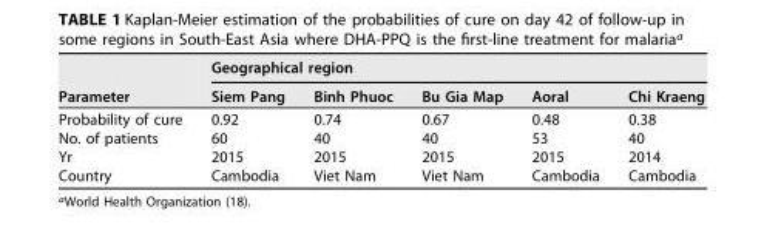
<table><thead><tr><td rowspan="2">Parameter</td><td colspan="5">Geographical region</td></tr><tr><td>Siem Pang</td><td>Binh Phuoc</td><td>Bu Gia Map</td><td>Aoral</td><td>Chi Kraeng</td></tr></thead><tbody><tr><td>Probability of cure</td><td>0.92</td><td>0.74</td><td>0.67</td><td>0.48</td><td>0.38</td></tr><tr><td>No. of patients</td><td>60</td><td>40</td><td>40</td><td>53</td><td>40</td></tr><tr><td>Yr</td><td>2015</td><td>2015</td><td>2015</td><td>2015</td><td>2014</td></tr><tr><td>Country</td><td>Cambodia</td><td>Viet Nam</td><td>Viet Nam</td><td>Cambodia</td><td>Cambodia</td></tr></tbody></table>